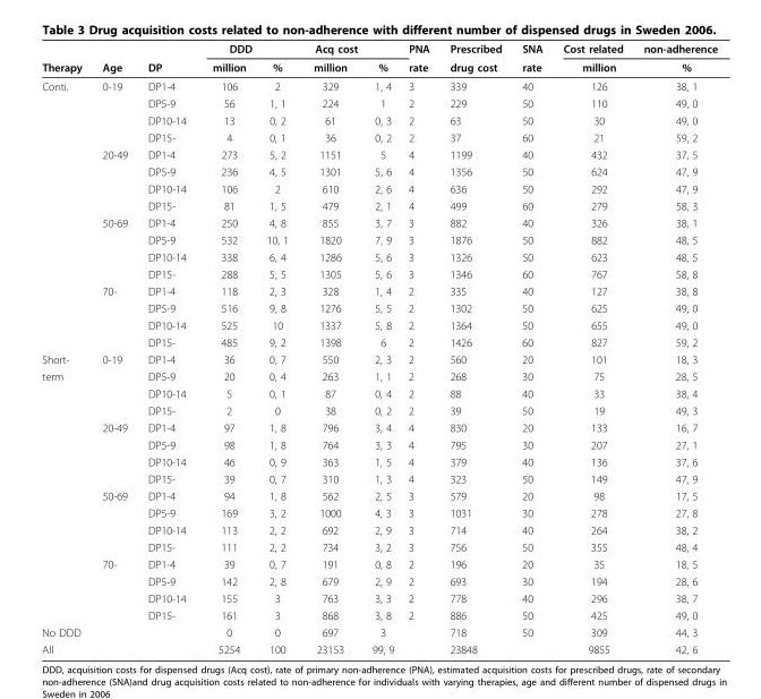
<table><thead><tr><td rowspan="2">Therapy</td><td rowspan="2">Age</td><td rowspan="2">DP</td><td rowspan="2">DDD million</td><td rowspan="2">%</td><td rowspan="2">Acq cost million</td><td rowspan="2">%</td><td rowspan="2">PNA rate</td><td rowspan="2">Prescribed drug cost</td><td rowspan="2">SNA rate</td><td rowspan="2">Cost related million</td><td rowspan="2">non-adherence %</td></tr><tr></tr></thead><tbody><tr><td rowspan="16">Conti.</td><td>0-19</td><td>DP1-4</td><td>106</td><td>2</td><td>329</td><td>1, 4</td><td>3</td><td>339</td><td>40</td><td>126</td><td>38, 1</td></tr><tr><td></td><td>DP5-9</td><td>56</td><td>1, 1</td><td>224</td><td>1</td><td>2</td><td>229</td><td>50</td><td>110</td><td>49, 0</td></tr><tr><td></td><td>DP10-14</td><td>13</td><td>0, 2</td><td>61</td><td>0, 3</td><td>2</td><td>63</td><td>50</td><td>30</td><td>49, 0</td></tr><tr><td></td><td>DP15-</td><td>4</td><td>0, 1</td><td>36</td><td>0, 2</td><td>2</td><td>37</td><td>60</td><td>21</td><td>59, 2</td></tr><tr><td>20-49</td><td>DP1-4</td><td>273</td><td>5, 2</td><td>1151</td><td>5</td><td>4</td><td>1199</td><td>40</td><td>432</td><td>37, 5</td></tr><tr><td></td><td>DP5-9</td><td>236</td><td>4, 5</td><td>1301</td><td>5, 6</td><td>4</td><td>1356</td><td>50</td><td>624</td><td>47, 9</td></tr><tr><td></td><td>DP10-14</td><td>106</td><td>2</td><td>610</td><td>2, 6</td><td>4</td><td>636</td><td>50</td><td>292</td><td>47, 9</td></tr><tr><td></td><td>DP15-</td><td>81</td><td>1, 5</td><td>479</td><td>2, 1</td><td>4</td><td>499</td><td>60</td><td>279</td><td>58, 3</td></tr><tr><td>50-69</td><td>DP1-4</td><td>250</td><td>4, 8</td><td>855</td><td>3, 7</td><td>3</td><td>882</td><td>40</td><td>326</td><td>38, 1</td></tr><tr><td></td><td>DP5-9</td><td>532</td><td>10, 1</td><td>1820</td><td>7, 9</td><td>3</td><td>1876</td><td>50</td><td>882</td><td>48, 5</td></tr><tr><td></td><td>DP10-14</td><td>338</td><td>6, 4</td><td>1286</td><td>5, 6</td><td>3</td><td>1326</td><td>50</td><td>623</td><td>48, 5</td></tr><tr><td></td><td>DP15-</td><td>288</td><td>5, 5</td><td>1305</td><td>5, 6</td><td>3</td><td>1346</td><td>60</td><td>767</td><td>58, 8</td></tr><tr><td>70-</td><td>DP1-4</td><td>118</td><td>2, 3</td><td>328</td><td>1, 4</td><td>2</td><td>335</td><td>40</td><td>127</td><td>38, 8</td></tr><tr><td></td><td>DP5-9</td><td>516</td><td>9, 8</td><td>1276</td><td>5, 5</td><td>2</td><td>1302</td><td>50</td><td>625</td><td>49, 0</td></tr><tr><td></td><td>DP10-14</td><td>525</td><td>10</td><td>1337</td><td>5, 8</td><td>2</td><td>1364</td><td>50</td><td>655</td><td>49, 0</td></tr><tr><td></td><td>DP15-</td><td>485</td><td>9, 2</td><td>1398</td><td>6</td><td>2</td><td>1426</td><td>60</td><td>827</td><td>59, 2</td></tr><tr><td>Short-</td><td>0-19</td><td>DP1-4</td><td>36</td><td>0, 7</td><td>550</td><td>2, 3</td><td>2</td><td>560</td><td>20</td><td>101</td><td>18, 3</td></tr><tr><td rowspan="15">term</td><td></td><td>DP5-9</td><td>20</td><td>0, 4</td><td>263</td><td>1, 1</td><td>2</td><td>268</td><td>30</td><td>75</td><td>28, 5</td></tr><tr><td></td><td>DP10-14</td><td>5</td><td>0, 1</td><td>87</td><td>0, 4</td><td>2</td><td>88</td><td>40</td><td>33</td><td>38, 4</td></tr><tr><td></td><td>DP15-</td><td>2</td><td>0</td><td>38</td><td>0, 2</td><td>2</td><td>39</td><td>50</td><td>19</td><td>49, 3</td></tr><tr><td>20-49</td><td>DP1-4</td><td>97</td><td>1, 8</td><td>796</td><td>3, 4</td><td>4</td><td>830</td><td>20</td><td>133</td><td>16, 7</td></tr><tr><td></td><td>DP5-9</td><td>98</td><td>1, 8</td><td>764</td><td>3, 3</td><td>4</td><td>795</td><td>30</td><td>207</td><td>27, 1</td></tr><tr><td></td><td>DP10-14</td><td>46</td><td>0, 9</td><td>363</td><td>1, 5</td><td>4</td><td>379</td><td>40</td><td>136</td><td>37, 6</td></tr><tr><td></td><td>DP15-</td><td>39</td><td>0, 7</td><td>310</td><td>1, 3</td><td>4</td><td>323</td><td>50</td><td>149</td><td>47, 9</td></tr><tr><td>50-69</td><td>DP1-4</td><td>94</td><td>1, 8</td><td>562</td><td>2, 5</td><td>3</td><td>579</td><td>20</td><td>98</td><td>17, 5</td></tr><tr><td></td><td>DP5-9</td><td>169</td><td>3, 2</td><td>1000</td><td>4, 3</td><td>3</td><td>1031</td><td>30</td><td>278</td><td>27, 8</td></tr><tr><td></td><td>DP10-14</td><td>113</td><td>2, 2</td><td>692</td><td>2, 9</td><td>3</td><td>714</td><td>40</td><td>264</td><td>38, 2</td></tr><tr><td></td><td>DP15-</td><td>111</td><td>2, 2</td><td>734</td><td>3, 2</td><td>3</td><td>756</td><td>50</td><td>355</td><td>48, 4</td></tr><tr><td>70-</td><td>DP1-4</td><td>39</td><td>0, 7</td><td>191</td><td>0, 8</td><td>2</td><td>196</td><td>20</td><td>35</td><td>18, 5</td></tr><tr><td></td><td>DP5-9</td><td>142</td><td>2, 8</td><td>679</td><td>2, 9</td><td>2</td><td>693</td><td>30</td><td>194</td><td>28, 6</td></tr><tr><td></td><td>DP10-14</td><td>155</td><td>3</td><td>763</td><td>3, 3</td><td>2</td><td>778</td><td>40</td><td>296</td><td>38, 7</td></tr><tr><td></td><td>DP15-</td><td>161</td><td>3</td><td>868</td><td>3, 8</td><td>2</td><td>886</td><td>50</td><td>425</td><td>49, 0</td></tr><tr><td colspan="2">No DDD</td><td></td><td>0</td><td>0</td><td>697</td><td>3</td><td></td><td>718</td><td>50</td><td>309</td><td>44, 3</td></tr><tr><td>All</td><td></td><td></td><td>5254</td><td>100</td><td>23153</td><td>99, 9</td><td></td><td>23848</td><td></td><td>9855</td><td>42, 6</td></tr></tbody></table>